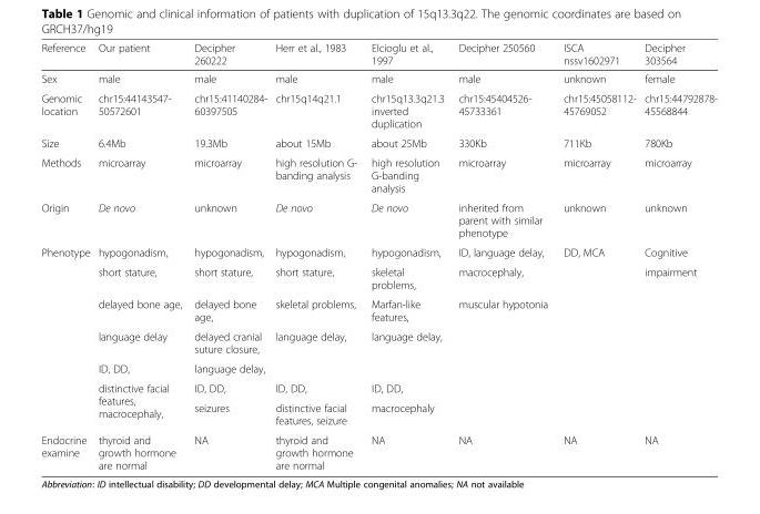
<table><thead><tr><td>Reference</td><td>Our patient</td><td>Decipher 260222</td><td>Herr et al., 1983</td><td>Elcioglu et al., 1997</td><td>Decipher 250560</td><td>ISCA nssv1602971</td><td>Decipher 303564</td></tr></thead><tbody><tr><td>Sex</td><td>male</td><td>male</td><td>male</td><td>male</td><td>male</td><td>unknown</td><td>female</td></tr><tr><td>Genomic location</td><td>chr15:44143547- 50572601</td><td>chr15:41140284- 60397505</td><td>chr15q14q21.1</td><td>chr15q13.3q21.3 inverted duplication</td><td>chr15:45404526- 45733361</td><td>chr15:45058112- 45769052</td><td>chr15:44792878- 45568844</td></tr><tr><td>Size</td><td>6.4Mb</td><td>19.3Mb</td><td>about 15Mb</td><td>about 25Mb</td><td>330Kb</td><td>711Kb</td><td>780Kb</td></tr><tr><td>Methods</td><td>microarray</td><td>microarray</td><td>high resolution G- banding analysis</td><td>high resolution G-banding analysis</td><td>microarray</td><td>microarray</td><td>microarray</td></tr><tr><td>Origin</td><td>De novo</td><td>unknown</td><td>De novo</td><td>De novo</td><td>inherited from parent with similar phenotype</td><td>unknown</td><td>unknown</td></tr><tr><td rowspan="7">Phenotype</td><td>hypogonadism,</td><td>hypogonadism,</td><td>hypogonadism,</td><td>hypogonadism,</td><td>ID, language delay,</td><td>DD, MCA</td><td>Cognitive</td></tr><tr><td>short stature,</td><td>short stature,</td><td>short stature,</td><td>skeletal problems,</td><td>macrocephaly,</td><td></td><td>impairment</td></tr><tr><td>delayed bone age,</td><td>delayed bone age,</td><td>skeletal problems,</td><td>Marfan-like features,</td><td>muscular hypotonia</td><td></td><td></td></tr><tr><td>language delay</td><td>delayed cranial suture closure,</td><td rowspan="2">language delay,</td><td rowspan="2">language delay,</td><td rowspan="2"></td><td rowspan="2"></td><td rowspan="2"></td></tr><tr><td>ID, DD,</td><td>language delay,</td></tr><tr><td rowspan="2">distinctive facial features, macrocephaly,</td><td>ID, DD,</td><td>ID, DD,</td><td>ID, DD,</td><td rowspan="2"></td><td rowspan="2"></td><td rowspan="2"></td></tr><tr><td>seizures</td><td>distinctive facial features, seizure</td><td>macrocephaly</td></tr><tr><td>Endocrine examine</td><td>thyroid and growth hormone are normal</td><td>NA</td><td>thyroid and growth hormone are normal</td><td>NA</td><td>NA</td><td>NA</td><td>NA</td></tr></tbody></table>